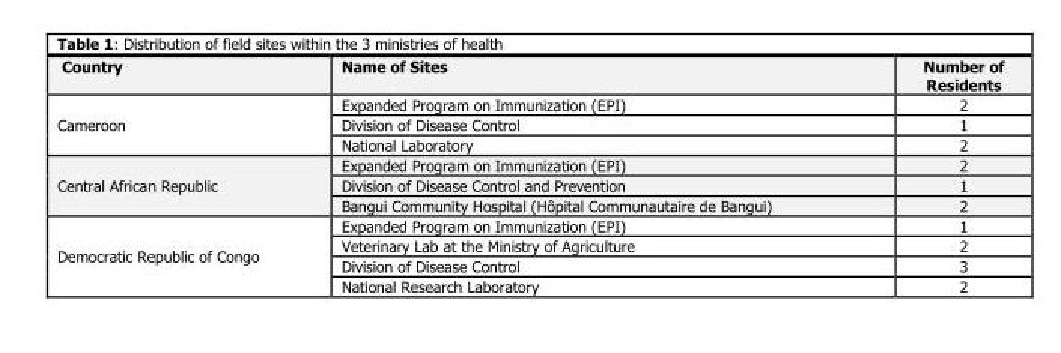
<table><thead><tr><td>Country</td><td>Name of Sites</td><td>Number of Residents</td></tr></thead><tbody><tr><td rowspan="3">Cameroon</td><td>Expanded Program on Immunization (EPI)</td><td>2</td></tr><tr><td>Division of Disease Control</td><td>1</td></tr><tr><td>National Laboratory</td><td>2</td></tr><tr><td rowspan="3">Central African Republic</td><td>Expanded Program on Immunization (EPI)</td><td>2</td></tr><tr><td>Division of Disease Control and Prevention</td><td>1</td></tr><tr><td>Bangui Community Hospital (Hôpital Communautaire de Bangui)</td><td>2</td></tr><tr><td rowspan="4">Democratic Republic of Congo</td><td>Expanded Program on Immunization (EPI)</td><td>1</td></tr><tr><td>Veterinary Lab at the Ministry of Agriculture</td><td>2</td></tr><tr><td>Division of Disease Control</td><td>3</td></tr><tr><td>National Research Laboratory</td><td>2</td></tr></tbody></table>